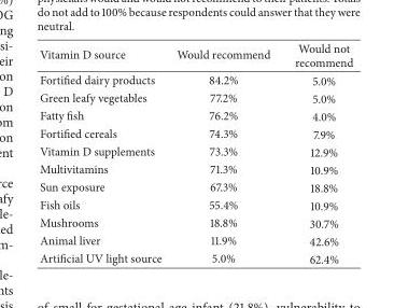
<table><thead><tr><td>Vitamin D source</td><td>Would recommend</td><td>Would not recommend</td></tr></thead><tbody><tr><td>Fortified dairy products</td><td>84.2%</td><td>5.0%</td></tr><tr><td>Green leafy vegetables</td><td>77.2%</td><td>5.0%</td></tr><tr><td>Fatty fish</td><td>76.2%</td><td>4.0%</td></tr><tr><td>Fortified cereals</td><td>74.3%</td><td>7.9%</td></tr><tr><td>Vitamin D supplements</td><td>73.3%</td><td>12.9%</td></tr><tr><td>Multivitamins</td><td>71.3%</td><td>10.9%</td></tr><tr><td>Sun exposure</td><td>67.3%</td><td>18.8%</td></tr><tr><td>Fish oils</td><td>55.4%</td><td>10.9%</td></tr><tr><td>Mushrooms</td><td>18.8%</td><td>30.7%</td></tr><tr><td>Animal liver</td><td>11.9%</td><td>42.6%</td></tr><tr><td>Artificial UV light source</td><td>5.0%</td><td>62.4%</td></tr></tbody></table>